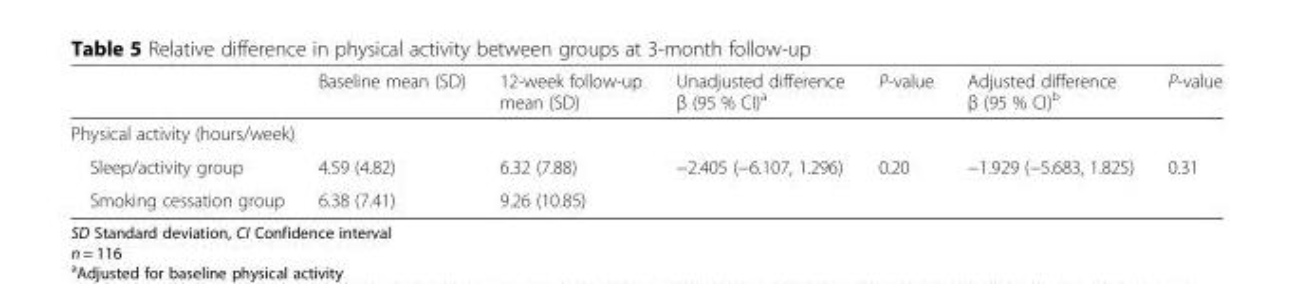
<table><thead><tr><td></td><td>Baseline mean (SD)</td><td>12-week follow-up mean (SD)</td><td>Unadjusted difference β (95 % CI)<sup>a</sup></td><td>P-value</td><td>Adjusted difference β (95 % CI)<sup>b</sup></td><td>P-value</td></tr></thead><tbody><tr><td colspan="7">Physical activity (hours/week)</td></tr><tr><td>Sleep/activity group</td><td>4.59 (4.82)</td><td>6.32 (7.88)</td><td rowspan="2">−2.405 (−6.107, 1.296)</td><td rowspan="2">0.20</td><td rowspan="2">−1.929 (−5.683, 1.825)</td><td rowspan="2">0.31</td></tr><tr><td>Smoking cessation group</td><td>6.38 (7.41)</td><td>9.26 (10.85)</td></tr></tbody></table>